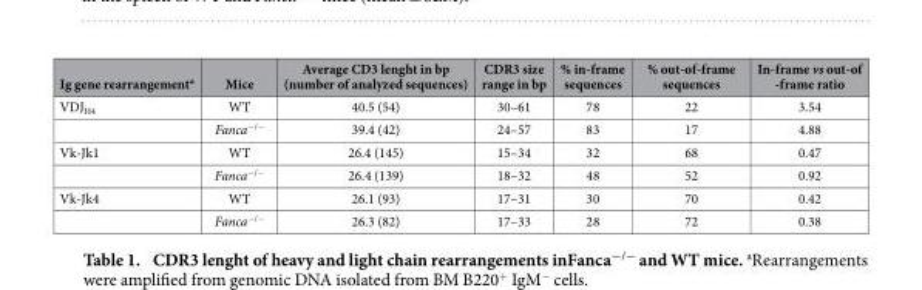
<table><thead><tr><td>Ig gene rearrangement<sup>a</sup></td><td>Mice</td><td>Average CD3 lenght in bp (number of analyzed sequences)</td><td>CDR3 size range in bp</td><td>% in-frame sequences</td><td>% out-of-frame sequences</td><td>In-frame vs out-of -frame ratio</td></tr></thead><tbody><tr><td rowspan="2">VDJ<sub>H4</sub></td><td>WT</td><td>40.5 (54)</td><td>30–61</td><td>78</td><td>22</td><td>3.54</td></tr><tr><td>Fanca<sup>−/−</sup></td><td>39.4 (42)</td><td>24–57</td><td>83</td><td>17</td><td>4.88</td></tr><tr><td rowspan="2">Vk-Jk1</td><td>WT</td><td>26.4 (145)</td><td>15–34</td><td>32</td><td>68</td><td>0.47</td></tr><tr><td>Fanca<sup>−/−</sup></td><td>26.4 (139)</td><td>18–32</td><td>48</td><td>52</td><td>0.92</td></tr><tr><td rowspan="2">Vk-Jk4</td><td>WT</td><td>26.1 (93)</td><td>17–31</td><td>30</td><td>70</td><td>0.42</td></tr><tr><td>Fanca<sup>−/−</sup></td><td>26.3 (82)</td><td>17–33</td><td>28</td><td>72</td><td>0.38</td></tr></tbody></table>